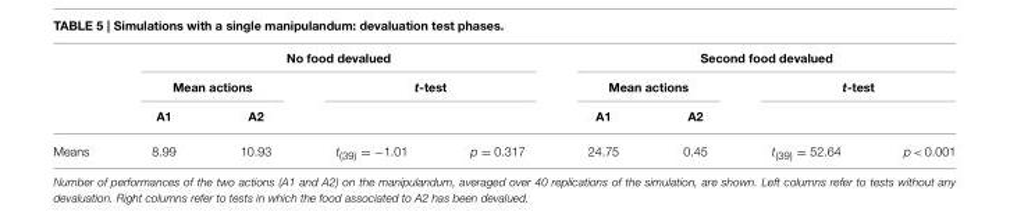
<table><thead><tr><td rowspan="3"></td><td colspan="4">No food devalued</td><td colspan="4">Second food devalued</td></tr><tr><td colspan="2">Mean actions</td><td colspan="2">t-test</td><td colspan="2">Mean actions</td><td colspan="2">t-test</td></tr><tr><td>A1</td><td>A2</td><td></td><td></td><td>A1</td><td>A2</td><td></td><td></td></tr></thead><tbody><tr><td>Means</td><td>8.99</td><td>10.93</td><td>t<sub>(39)</sub> = −1.01</td><td>p = 0.317</td><td>24.75</td><td>0.45</td><td>t<sub>(39)</sub> = 52.64</td><td>p &lt; 0.001</td></tr></tbody></table>